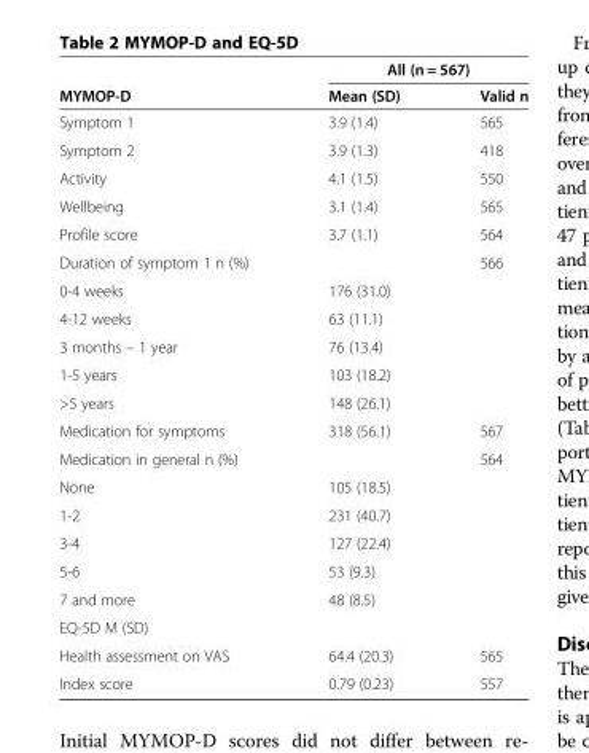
<table><thead><tr><td rowspan="2">MYMOP-D</td><td colspan="2">All (n = 567)</td></tr><tr><td>Mean (SD)</td><td>Valid n</td></tr></thead><tbody><tr><td>Symptom 1</td><td>3.9 (1.4)</td><td>565</td></tr><tr><td>Symptom 2</td><td>3.9 (1.3)</td><td>418</td></tr><tr><td>Activity</td><td>4.1 (1.5)</td><td>550</td></tr><tr><td>Wellbeing</td><td>3.1 (1.4)</td><td>565</td></tr><tr><td>Profile score</td><td>3.7 (1.1)</td><td>564</td></tr><tr><td>Duration of symptom 1 n (%)</td><td></td><td>566</td></tr><tr><td>0-4 weeks</td><td>176 (31.0)</td><td></td></tr><tr><td>4-12 weeks</td><td>63 (11.1)</td><td></td></tr><tr><td>3 months – 1 year</td><td>76 (13.4)</td><td></td></tr><tr><td>1-5 years</td><td>103 (18.2)</td><td></td></tr><tr><td>&gt;5 years</td><td>148 (26.1)</td><td></td></tr><tr><td>Medication for symptoms</td><td>318 (56.1)</td><td>567</td></tr><tr><td>Medication in general n (%)</td><td></td><td>564</td></tr><tr><td>None</td><td>105 (18.5)</td><td></td></tr><tr><td>1-2</td><td>231 (40.7)</td><td></td></tr><tr><td>3-4</td><td>127 (22.4)</td><td></td></tr><tr><td>5-6</td><td>53 (9.3)</td><td></td></tr><tr><td>7 and more</td><td>48 (8.5)</td><td></td></tr><tr><td colspan="3">EQ-5D M (SD)</td></tr><tr><td>Health assessment on VAS</td><td>64.4 (20.3)</td><td>565</td></tr><tr><td>Index score</td><td>0.79 (0.23)</td><td>557</td></tr></tbody></table>